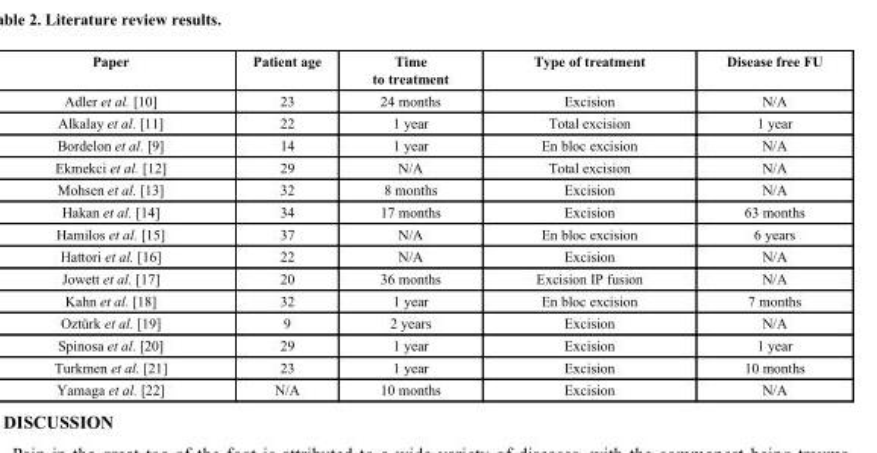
<table><thead><tr><td>Paper</td><td>Patient age</td><td>Time to treatment</td><td>Type of treatment</td><td>Disease free FU</td></tr></thead><tbody><tr><td>Adler et al. [10]</td><td>23</td><td>24 months</td><td>Excision</td><td>N/A</td></tr><tr><td>Alkalay et al. [11]</td><td>22</td><td>1 year</td><td>Total excision</td><td>1 year</td></tr><tr><td>Bordelon et al. [9]</td><td>14</td><td>1 year</td><td>En bloc excision</td><td>N/A</td></tr><tr><td>Ekmekci et al. [12]</td><td>29</td><td>N/A</td><td>Total excision</td><td>N/A</td></tr><tr><td>Mohsen et al. [13]</td><td>32</td><td>8 months</td><td>Excision</td><td>N/A</td></tr><tr><td>Hakan et al. [14]</td><td>34</td><td>17 months</td><td>Excision</td><td>63 months</td></tr><tr><td>Hamilos et al. [15]</td><td>37</td><td>N/A</td><td>En bloc excision</td><td>6 years</td></tr><tr><td>Hattori et al. [16]</td><td>22</td><td>N/A</td><td>Excision</td><td>N/A</td></tr><tr><td>Jowett et al. [17]</td><td>20</td><td>36 months</td><td>Excision IP fusion</td><td>N/A</td></tr><tr><td>Kahn et al. [18]</td><td>32</td><td>1 year</td><td>En bloc excision</td><td>7 months</td></tr><tr><td>Oztürk et al. [19]</td><td>9</td><td>2 years</td><td>Excision</td><td>N/A</td></tr><tr><td>Spinosa et al. [20]</td><td>29</td><td>1 year</td><td>Excision</td><td>1 year</td></tr><tr><td>Turkmen et al. [21]</td><td>23</td><td>1 year</td><td>Excision</td><td>10 months</td></tr><tr><td>Yamaga et al. [22]</td><td>N/A</td><td>10 months</td><td>Excision</td><td>N/A</td></tr></tbody></table>